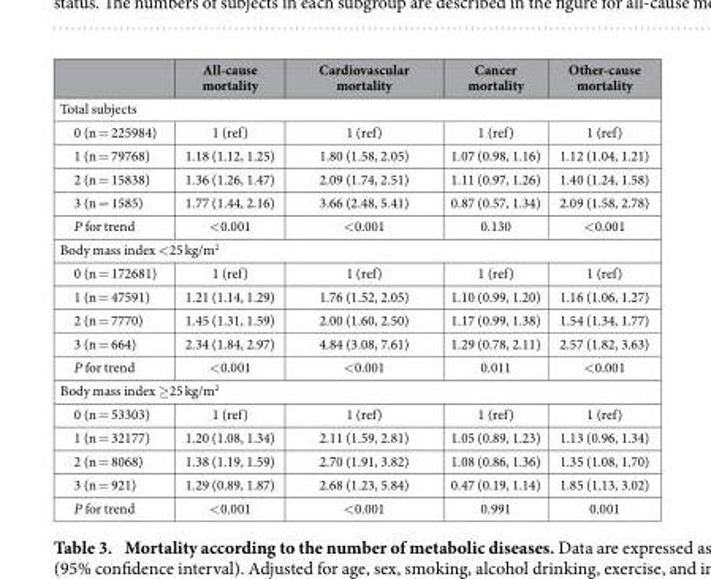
<table><thead><tr><td></td><td>All-cause mortality</td><td>Cardiovascular mortality</td><td>Cancer mortality</td><td>Other-cause mortality</td></tr></thead><tbody><tr><td colspan="5">Total subjects</td></tr><tr><td>0 (n = 225984)</td><td>1 (ref)</td><td>1 (ref)</td><td>1 (ref)</td><td>1 (ref)</td></tr><tr><td>1 (n = 79768)</td><td>1.18 (1.12, 1.25)</td><td>1.80 (1.58, 2.05)</td><td>1.07 (0.98, 1.16)</td><td>1.12 (1.04, 1.21)</td></tr><tr><td>2 (n = 15838)</td><td>1.36 (1.26, 1.47)</td><td>2.09 (1.74, 2.51)</td><td>1.11 (0.97, 1.26)</td><td>1.40 (1.24, 1.58)</td></tr><tr><td>3 (n = 1585)</td><td>1.77 (1.44, 2.16)</td><td>3.66 (2.48, 5.41)</td><td>0.87 (0.57, 1.34)</td><td>2.09 (1.58, 2.78)</td></tr><tr><td>P for trend</td><td>&lt;0.001</td><td>&lt;0.001</td><td>0.130</td><td>&lt;0.001</td></tr><tr><td colspan="5">Body mass index &lt;25 kg/m<sup>2</sup></td></tr><tr><td>0 (n = 172681)</td><td>1 (ref)</td><td>1 (ref)</td><td>1 (ref)</td><td>1 (ref)</td></tr><tr><td>1 (n = 47591)</td><td>1.21 (1.14, 1.29)</td><td>1.76 (1.52, 2.05)</td><td>1.10 (0.99, 1.20)</td><td>1.16 (1.06, 1.27)</td></tr><tr><td>2 (n = 7770)</td><td>1.45 (1.31, 1.59)</td><td>2.00 (1.60, 2.50)</td><td>1.17 (0.99, 1.38)</td><td>1.54 (1.34, 1.77)</td></tr><tr><td>3 (n = 664)</td><td>2.34 (1.84, 2.97)</td><td>4.84 (3.08, 7.61)</td><td>1.29 (0.78, 2.11)</td><td>2.57 (1.82, 3.63)</td></tr><tr><td>P for trend</td><td>&lt;0.001</td><td>&lt;0.001</td><td>0.011</td><td>&lt;0.001</td></tr><tr><td colspan="5">Body mass index ≥25 kg/m<sup>2</sup></td></tr><tr><td>0 (n = 53303)</td><td>1 (ref)</td><td>1 (ref)</td><td>1 (ref)</td><td>1 (ref)</td></tr><tr><td>1 (n = 32177)</td><td>1.20 (1.08, 1.34)</td><td>2.11 (1.59, 2.81)</td><td>1.05 (0.89, 1.23)</td><td>1.13 (0.96, 1.34)</td></tr><tr><td>2 (n = 8068)</td><td>1.38 (1.19, 1.59)</td><td>2.70 (1.91, 3.82)</td><td>1.08 (0.86, 1.36)</td><td>1.35 (1.08, 1.70)</td></tr><tr><td>3 (n = 921)</td><td>1.29 (0.89, 1.87)</td><td>2.68 (1.23, 5.84)</td><td>0.47 (0.19, 1.14)</td><td>1.85 (1.13, 3.02)</td></tr><tr><td>P for trend</td><td>&lt;0.001</td><td>&lt;0.001</td><td>0.991</td><td>0.001</td></tr></tbody></table>